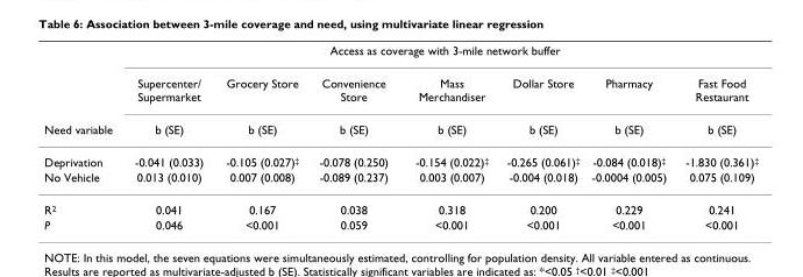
<table><thead><tr><td rowspan="3">Need variable</td><td colspan="7">Access as coverage with 3-mile network buffer</td></tr><tr><td rowspan="2">Supercenter/ Supermarket b (SE)</td><td rowspan="2">Grocery Store b (SE)</td><td rowspan="2">Convenience Store b (SE)</td><td rowspan="2">Mass Merchandiser b (SE)</td><td rowspan="2">Dollar Store b (SE)</td><td rowspan="2">Pharmacy b (SE)</td><td rowspan="2">Fast Food Restaurant b (SE)</td></tr><tr></tr></thead><tbody><tr><td>Deprivation</td><td>-0.041 (0.033)</td><td>-0.105 (0.027)<sup>‡</sup></td><td>-0.078 (0.250)</td><td>-0.154 (0.022)<sup>‡</sup></td><td>-0.265 (0.061)<sup>‡</sup></td><td>-0.084 (0.018)<sup>‡</sup></td><td>-1.830 (0.361)<sup>‡</sup></td></tr><tr><td>No Vehicle</td><td>0.013 (0.010)</td><td>0.007 (0.008)</td><td>-0.089 (0.237)</td><td>0.003 (0.007)</td><td>-0.004 (0.018)</td><td>-0.0004 (0.005)</td><td>0.075 (0.109)</td></tr><tr><td>R<sup>2</sup></td><td>0.041</td><td>0.167</td><td>0.038</td><td>0.318</td><td>0.200</td><td>0.229</td><td>0.241</td></tr><tr><td>P</td><td>0.046</td><td>&lt;0.001</td><td>0.059</td><td>&lt;0.001</td><td>&lt;0.001</td><td>&lt;0.001</td><td>&lt;0.001</td></tr></tbody></table>